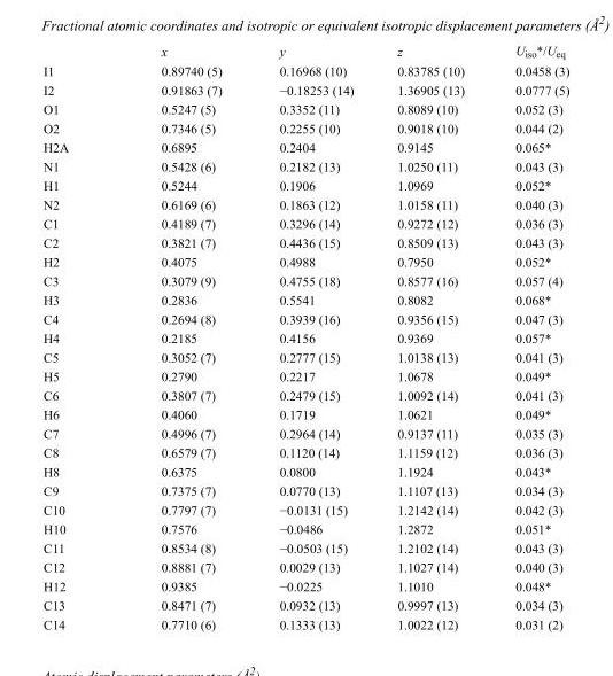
<table><thead><tr><td></td><td>x</td><td>y</td><td>z</td><td>U<sub>iso</sub>*/U<sub>eq</sub></td></tr></thead><tbody><tr><td>I1</td><td>0.89740 (5)</td><td>0.16968 (10)</td><td>0.83785 (10)</td><td>0.0458 (3)</td></tr><tr><td>I2</td><td>0.91863 (7)</td><td>−0.18253 (14)</td><td>1.36905 (13)</td><td>0.0777 (5)</td></tr><tr><td>O1</td><td>0.5247 (5)</td><td>0.3352 (11)</td><td>0.8089 (10)</td><td>0.052 (3)</td></tr><tr><td>O2</td><td>0.7346 (5)</td><td>0.2255 (10)</td><td>0.9018 (10)</td><td>0.044 (2)</td></tr><tr><td>H2A</td><td>0.6895</td><td>0.2404</td><td>0.9145</td><td>0.065*</td></tr><tr><td>N1</td><td>0.5428 (6)</td><td>0.2182 (13)</td><td>1.0250 (11)</td><td>0.043 (3)</td></tr><tr><td>H1</td><td>0.5244</td><td>0.1906</td><td>1.0969</td><td>0.052*</td></tr><tr><td>N2</td><td>0.6169 (6)</td><td>0.1863 (12)</td><td>1.0158 (11)</td><td>0.040 (3)</td></tr><tr><td>C1</td><td>0.4189 (7)</td><td>0.3296 (14)</td><td>0.9272 (12)</td><td>0.036 (3)</td></tr><tr><td>C2</td><td>0.3821 (7)</td><td>0.4436 (15)</td><td>0.8509 (13)</td><td>0.043 (3)</td></tr><tr><td>H2</td><td>0.4075</td><td>0.4988</td><td>0.7950</td><td>0.052*</td></tr><tr><td>C3</td><td>0.3079 (9)</td><td>0.4755 (18)</td><td>0.8577 (16)</td><td>0.057 (4)</td></tr><tr><td>H3</td><td>0.2836</td><td>0.5541</td><td>0.8082</td><td>0.068*</td></tr><tr><td>C4</td><td>0.2694 (8)</td><td>0.3939 (16)</td><td>0.9356 (15)</td><td>0.047 (3)</td></tr><tr><td>H4</td><td>0.2185</td><td>0.4156</td><td>0.9369</td><td>0.057*</td></tr><tr><td>C5</td><td>0.3052 (7)</td><td>0.2777 (15)</td><td>1.0138 (13)</td><td>0.041 (3)</td></tr><tr><td>H5</td><td>0.2790</td><td>0.2217</td><td>1.0678</td><td>0.049*</td></tr><tr><td>C6</td><td>0.3807 (7)</td><td>0.2479 (15)</td><td>1.0092 (14)</td><td>0.041 (3)</td></tr><tr><td>H6</td><td>0.4060</td><td>0.1719</td><td>1.0621</td><td>0.049*</td></tr><tr><td>C7</td><td>0.4996 (7)</td><td>0.2964 (14)</td><td>0.9137 (11)</td><td>0.035 (3)</td></tr><tr><td>C8</td><td>0.6579 (7)</td><td>0.1120 (14)</td><td>1.1159 (12)</td><td>0.036 (3)</td></tr><tr><td>H8</td><td>0.6375</td><td>0.0800</td><td>1.1924</td><td>0.043*</td></tr><tr><td>C9</td><td>0.7375 (7)</td><td>0.0770 (13)</td><td>1.1107 (13)</td><td>0.034 (3)</td></tr><tr><td>C10</td><td>0.7797 (7)</td><td>−0.0131 (15)</td><td>1.2142 (14)</td><td>0.042 (3)</td></tr><tr><td>H10</td><td>0.7576</td><td>−0.0486</td><td>1.2872</td><td>0.051*</td></tr><tr><td>C11</td><td>0.8534 (8)</td><td>−0.0503 (15)</td><td>1.2102 (14)</td><td>0.043 (3)</td></tr><tr><td>C12</td><td>0.8881 (7)</td><td>0.0029 (13)</td><td>1.1027 (14)</td><td>0.040 (3)</td></tr><tr><td>H12</td><td>0.9385</td><td>−0.0225</td><td>1.1010</td><td>0.048*</td></tr><tr><td>C13</td><td>0.8471 (7)</td><td>0.0932 (13)</td><td>0.9997 (13)</td><td>0.034 (3)</td></tr><tr><td>C14</td><td>0.7710 (6)</td><td>0.1333 (13)</td><td>1.0022 (12)</td><td>0.031 (2)</td></tr></tbody></table>